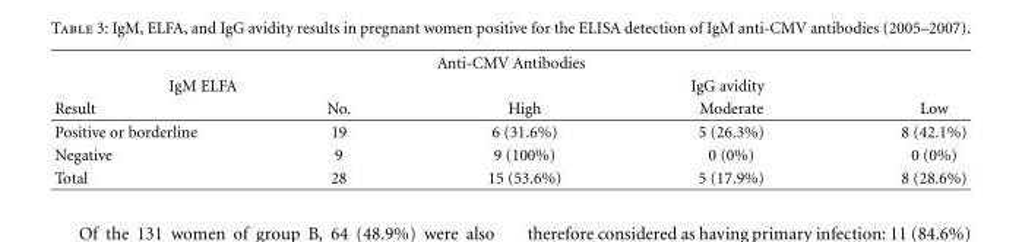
<table><thead><tr><td colspan="5">Anti-CMV Antibodies</td></tr><tr><td colspan="2">IgM ELFA</td><td colspan="3">IgG avidity</td></tr><tr><td>Result</td><td>No.</td><td>High</td><td>Moderate</td><td>Low</td></tr></thead><tbody><tr><td>Positive or borderline</td><td>19</td><td>6 (31.6%)</td><td>5 (26.3%)</td><td>8 (42.1%)</td></tr><tr><td>Negative</td><td>9</td><td>9 (100%)</td><td>0 (0%)</td><td>0 (0%)</td></tr><tr><td>Total</td><td>28</td><td>15 (53.6%)</td><td>5 (17.9%)</td><td>8 (28.6%)</td></tr></tbody></table>